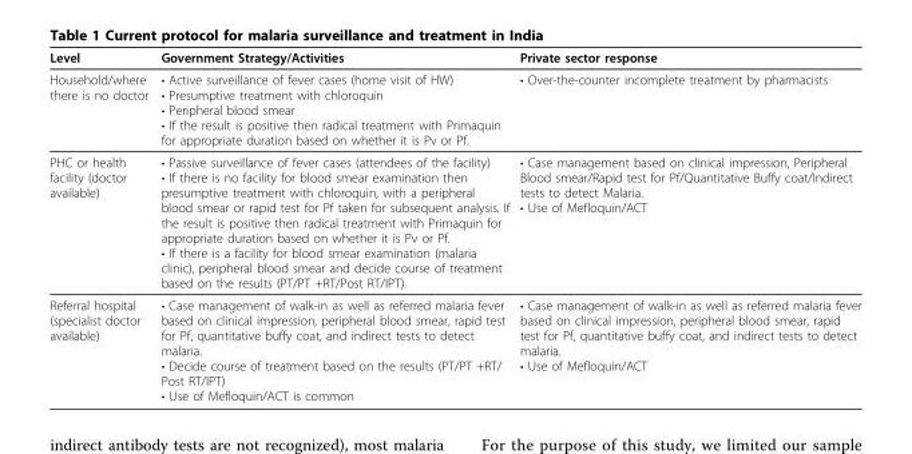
<table><thead><tr><td>Level</td><td>Government Strategy/Activities</td><td>Private sector response</td></tr></thead><tbody><tr><td>Household/where there is no doctor</td><td>• Active surveillance of fever cases (home visit of HW) • Presumptive treatment with chloroquin • Peripheral blood smear • If the result is positive then radical treatment with Primaquin for appropriate duration based on whether it is Pv or Pf.</td><td>• Over-the-counter incomplete treatment by pharmacists</td></tr><tr><td>PHC or health facility (doctor available)</td><td>• Passive surveillance of fever cases (attendees of the facility) • If there is no facility for blood smear examination then presumptive treatment with chloroquin, with a peripheral blood smear or rapid test for Pf taken for subsequent analysis. If the result is positive then radical treatment with Primaquin for appropriate duration based on whether it is Pv or Pf. • If there is a facility for blood smear examination (malaria clinic), peripheral blood smear and decide course of treatment based on the results (PT/PT +RT/Post RT/IPT).</td><td>• Case management based on clinical impression, Peripheral Blood smear/Rapid test for Pf/Quantitative Buffy coat/Indirect tests to detect Malaria. • Use of Mefloquin/ACT</td></tr><tr><td>Referral hospital (specialist doctor available)</td><td>• Case management of walk-in as well as referred malaria fever based on clinical impression, peripheral blood smear, rapid test for Pf, quantitative buffy coat, and indirect tests to detect malaria. • Decide course of treatment based on the results (PT/PT +RT/ Post RT/IPT) • Use of Mefloquin/ACT is common</td><td>• Case management of walk-in as well as referred malaria fever based on clinical impression, peripheral blood smear, rapid test for Pf, quantitative buffy coat, and indirect tests to detect malaria. • Use of Mefloquin/ACT</td></tr></tbody></table>